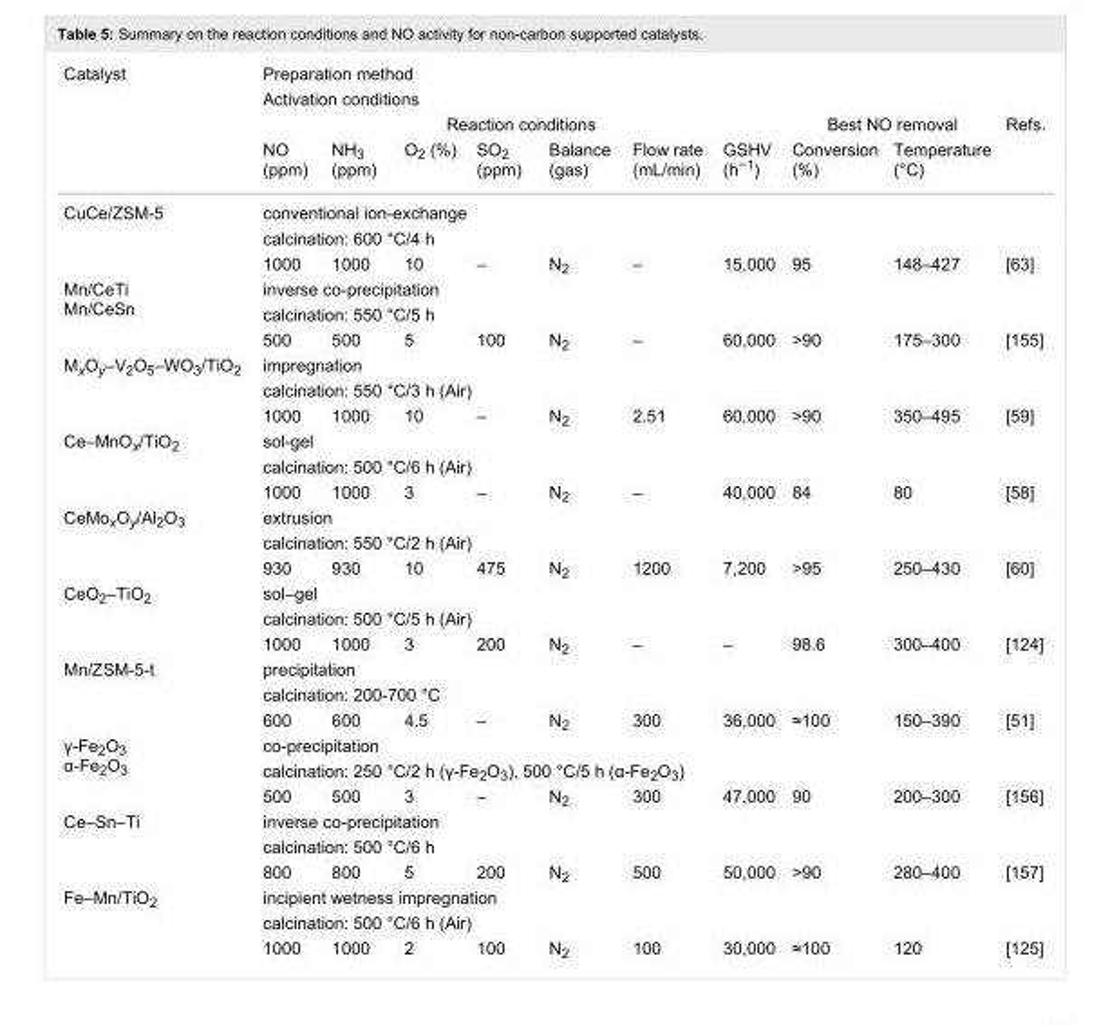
<table><tbody><tr><td rowspan="4">Catalyst</td><td colspan="10">Preparation method</td></tr><tr><td colspan="10">Activation conditions</td></tr><tr><td colspan="7">Reaction conditions</td><td colspan="2">Best NO removal</td><td>Refs.</td></tr><tr><td>NO (ppm)</td><td>NH<sub>3</sub> (ppm)</td><td>O<sub>2</sub> (%)</td><td>SO<sub>2</sub> (ppm)</td><td>Balance (gas)</td><td>Flow rate (mL/min)</td><td>GSHV (h<sup>−1</sup>)</td><td>Conversion (%)</td><td>Temperature (°C)</td><td></td></tr><tr><td rowspan="3">CuCe/ZSM-5</td><td colspan="10">conventional ion-exchange</td></tr><tr><td colspan="10">calcination: 600 °C/4 h</td></tr><tr><td>1000</td><td>1000</td><td>10</td><td>–</td><td>N<sub>2</sub></td><td>–</td><td>15,000</td><td>95</td><td>148–427</td><td>[63]</td></tr><tr><td rowspan="3">Mn/CeTi Mn/CeSn</td><td colspan="10">inverse co-precipitation</td></tr><tr><td colspan="10">calcination: 550 °C/5 h</td></tr><tr><td>500</td><td>500</td><td>5</td><td>100</td><td>N<sub>2</sub></td><td>–</td><td>60,000</td><td>&gt;90</td><td>175–300</td><td>[155]</td></tr><tr><td rowspan="3">M<sub>x</sub>O<sub>y</sub>–V<sub>2</sub>O<sub>5</sub>–WO<sub>3</sub>/TiO<sub>2</sub></td><td colspan="10">impregnation</td></tr><tr><td colspan="10">calcination: 550 °C/3 h (Air)</td></tr><tr><td>1000</td><td>1000</td><td>10</td><td>–</td><td>N<sub>2</sub></td><td>2.51</td><td>60,000</td><td>&gt;90</td><td>350–495</td><td>[59]</td></tr><tr><td rowspan="3">Ce–MnO<sub>x</sub>/TiO<sub>2</sub></td><td colspan="10">sol-gel</td></tr><tr><td colspan="10">calcination: 500 °C/6 h (Air)</td></tr><tr><td>1000</td><td>1000</td><td>3</td><td>–</td><td>N<sub>2</sub></td><td>–</td><td>40,000</td><td>84</td><td>80</td><td>[58]</td></tr><tr><td rowspan="3">CeMo<sub>x</sub>O<sub>y</sub>/Al<sub>2</sub>O<sub>3</sub></td><td colspan="10">extrusion</td></tr><tr><td colspan="10">calcination: 550 °C/2 h (Air)</td></tr><tr><td>930</td><td>930</td><td>10</td><td>475</td><td>N<sub>2</sub></td><td>1200</td><td>7,200</td><td>&gt;95</td><td>250–430</td><td>[60]</td></tr><tr><td rowspan="3">CeO<sub>2</sub>–TiO<sub>2</sub></td><td colspan="10">sol–gel</td></tr><tr><td colspan="10">calcination: 500 °C/5 h (Air)</td></tr><tr><td>1000</td><td>1000</td><td>3</td><td>200</td><td>N<sub>2</sub></td><td>–</td><td>–</td><td>98.6</td><td>300–400</td><td>[124]</td></tr><tr><td rowspan="3">Mn/ZSM-5-t</td><td colspan="10">precipitation</td></tr><tr><td colspan="10">calcination: 200-700 °C</td></tr><tr><td>600</td><td>600</td><td>4.5</td><td>–</td><td>N<sub>2</sub></td><td>300</td><td>36,000</td><td>≈100</td><td>150–390</td><td>[51]</td></tr><tr><td rowspan="3">γ-Fe<sub>2</sub>O<sub>3</sub> α-Fe<sub>2</sub>O<sub>3</sub></td><td colspan="10">co-precipitation</td></tr><tr><td colspan="10">calcination: 250 °C/2 h (γ-Fe<sub>2</sub>O<sub>3</sub>), 500 °C/5 h (α-Fe<sub>2</sub>O<sub>3</sub>)</td></tr><tr><td>500</td><td>500</td><td>3</td><td>–</td><td>N<sub>2</sub></td><td>300</td><td>47,000</td><td>90</td><td>200–300</td><td>[156]</td></tr><tr><td rowspan="3">Ce–Sn–Ti</td><td colspan="10">inverse co-precipitation</td></tr><tr><td colspan="10">calcination: 500 °C/6 h</td></tr><tr><td>800</td><td>800</td><td>5</td><td>200</td><td>N<sub>2</sub></td><td>500</td><td>50,000</td><td>&gt;90</td><td>280–400</td><td>[157]</td></tr><tr><td rowspan="3">Fe–Mn/TiO<sub>2</sub></td><td colspan="10">incipient wetness impregnation</td></tr><tr><td colspan="10">calcination: 500 °C/6 h (Air)</td></tr><tr><td>1000</td><td>1000</td><td>2</td><td>100</td><td>N<sub>2</sub></td><td>100</td><td>30,000</td><td>≈100</td><td>120</td><td>[125]</td></tr></tbody></table>